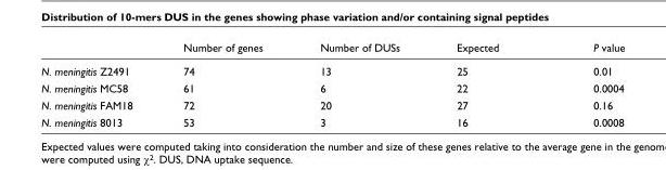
<table><thead><tr><td></td><td>Number of genes</td><td>Number of DUSs</td><td>Expected</td><td>P value</td></tr></thead><tbody><tr><td>N. meningitis Z2491</td><td>74</td><td>13</td><td>25</td><td>0.01</td></tr><tr><td>N. meningitis MC58</td><td>61</td><td>6</td><td>22</td><td>0.0004</td></tr><tr><td>N. meningitis FAM18</td><td>72</td><td>20</td><td>27</td><td>0.16</td></tr><tr><td>N. meningitis 8013</td><td>53</td><td>3</td><td>16</td><td>0.0008</td></tr></tbody></table>